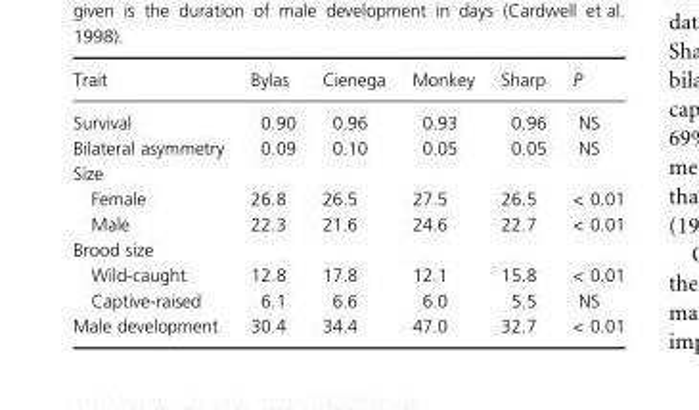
<table><thead><tr><td>Trait</td><td>Bylas</td><td>Cienega</td><td>Monkey</td><td>Sharp</td><td>P</td></tr></thead><tbody><tr><td>Survival</td><td>0.90</td><td>0.96</td><td>0.93</td><td>0.96</td><td>NS</td></tr><tr><td>Bilateral asymmetry</td><td>0.09</td><td>0.10</td><td>0.05</td><td>0.05</td><td>NS</td></tr><tr><td colspan="6">Size</td></tr><tr><td>Female</td><td>26.8</td><td>26.5</td><td>27.5</td><td>26.5</td><td>&lt; 0.01</td></tr><tr><td>Male</td><td>22.3</td><td>21.6</td><td>24.6</td><td>22.7</td><td>&lt; 0.01</td></tr><tr><td colspan="6">Brood size</td></tr><tr><td>Wild-caught</td><td>12.8</td><td>17.8</td><td>12.1</td><td>15.8</td><td>&lt; 0.01</td></tr><tr><td>Captive-raised</td><td>6.1</td><td>6.6</td><td>6.0</td><td>5.5</td><td>NS</td></tr><tr><td>Male development</td><td>30.4</td><td>34.4</td><td>47.0</td><td>32.7</td><td>&lt; 0.01</td></tr></tbody></table>